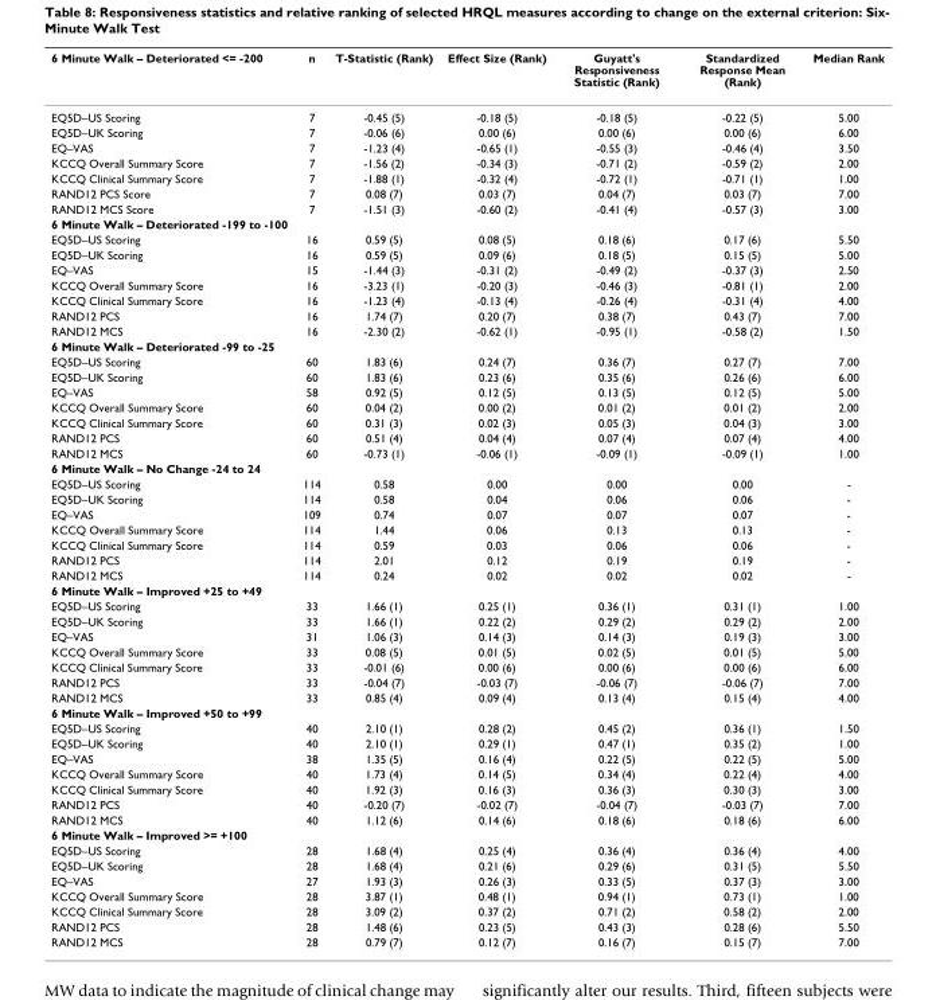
<table><thead><tr><td>6 Minute Walk – Deteriorated &lt;= -200</td><td>n</td><td>T-Statistic (Rank)</td><td>Effect Size (Rank)</td><td>Guyatt&#x27;s Responsiveness Statistic (Rank)</td><td>Standardized Response Mean (Rank)</td><td>Median Rank</td></tr></thead><tbody><tr><td>EQ5D–US Scoring</td><td>7</td><td>-0.45 (5)</td><td>-0.18 (5)</td><td>-0.18 (5)</td><td>-0.22 (5)</td><td>5.00</td></tr><tr><td>EQ5D–UK Scoring</td><td>7</td><td>-0.06 (6)</td><td>0.00 (6)</td><td>0.00 (6)</td><td>0.00 (6)</td><td>6.00</td></tr><tr><td>EQ–VAS</td><td>7</td><td>-1.23 (4)</td><td>-0.65 (1)</td><td>-0.55 (3)</td><td>-0.46 (4)</td><td>3.50</td></tr><tr><td>KCCQ Overall Summary Score</td><td>7</td><td>-1.56 (2)</td><td>-0.34 (3)</td><td>-0.71 (2)</td><td>-0.59 (2)</td><td>2.00</td></tr><tr><td>KCCQ Clinical Summary Score</td><td>7</td><td>-1.88 (1)</td><td>-0.32 (4)</td><td>-0.72 (1)</td><td>-0.71 (1)</td><td>1.00</td></tr><tr><td>RAND12 PCS Score</td><td>7</td><td>0.08 (7)</td><td>0.03 (7)</td><td>0.04 (7)</td><td>0.03 (7)</td><td>7.00</td></tr><tr><td>RAND12 MCS Score</td><td>7</td><td>-1.51 (3)</td><td>-0.60 (2)</td><td>-0.41 (4)</td><td>-0.57 (3)</td><td>3.00</td></tr><tr><td colspan="7">6 Minute Walk – Deteriorated -199 to -100</td></tr><tr><td>EQ5D–US Scoring</td><td>16</td><td>0.59 (5)</td><td>0.08 (5)</td><td>0.18 (6)</td><td>0.17 (6)</td><td>5.50</td></tr><tr><td>EQ5D–UK Scoring</td><td>16</td><td>0.59 (5)</td><td>0.09 (6)</td><td>0.18 (5)</td><td>0.15 (5)</td><td>5.00</td></tr><tr><td>EQ–VAS</td><td>15</td><td>-1.44 (3)</td><td>-0.31 (2)</td><td>-0.49 (2)</td><td>-0.37 (3)</td><td>2.50</td></tr><tr><td>KCCQ Overall Summary Score</td><td>16</td><td>-3.23 (1)</td><td>-0.20 (3)</td><td>-0.46 (3)</td><td>-0.81 (1)</td><td>2.00</td></tr><tr><td>KCCQ Clinical Summary Score</td><td>16</td><td>-1.23 (4)</td><td>-0.13 (4)</td><td>-0.26 (4)</td><td>-0.31 (4)</td><td>4.00</td></tr><tr><td>RAND12 PCS</td><td>16</td><td>1.74 (7)</td><td>0.20 (7)</td><td>0.38 (7)</td><td>0.43 (7)</td><td>7.00</td></tr><tr><td>RAND12 MCS</td><td>16</td><td>-2.30 (2)</td><td>-0.62 (1)</td><td>-0.95 (1)</td><td>-0.58 (2)</td><td>1.50</td></tr><tr><td colspan="7">6 Minute Walk – Deteriorated -99 to -25</td></tr><tr><td>EQ5D–US Scoring</td><td>60</td><td>1.83 (6)</td><td>0.24 (7)</td><td>0.36 (7)</td><td>0.27 (7)</td><td>7.00</td></tr><tr><td>EQ5D–UK Scoring</td><td>60</td><td>1.83 (6)</td><td>0.23 (6)</td><td>0.35 (6)</td><td>0.26 (6)</td><td>6.00</td></tr><tr><td>EQ–VAS</td><td>58</td><td>0.92 (5)</td><td>0.12 (5)</td><td>0.13 (5)</td><td>0.12 (5)</td><td>5.00</td></tr><tr><td>KCCQ Overall Summary Score</td><td>60</td><td>0.04 (2)</td><td>0.00 (2)</td><td>0.01 (2)</td><td>0.01 (2)</td><td>2.00</td></tr><tr><td>KCCQ Clinical Summary Score</td><td>60</td><td>0.31 (3)</td><td>0.02 (3)</td><td>0.05 (3)</td><td>0.04 (3)</td><td>3.00</td></tr><tr><td>RAND12 PCS</td><td>60</td><td>0.51 (4)</td><td>0.04 (4)</td><td>0.07 (4)</td><td>0.07 (4)</td><td>4.00</td></tr><tr><td>RAND12 MCS</td><td>60</td><td>-0.73 (1)</td><td>-0.06 (1)</td><td>-0.09 (1)</td><td>-0.09 (1)</td><td>1.00</td></tr><tr><td colspan="7">6 Minute Walk – No Change -24 to 24</td></tr><tr><td>EQ5D–US Scoring</td><td>114</td><td>0.58</td><td>0.00</td><td>0.00</td><td>0.00</td><td>-</td></tr><tr><td>EQ5D–UK Scoring</td><td>114</td><td>0.58</td><td>0.04</td><td>0.06</td><td>0.06</td><td>-</td></tr><tr><td>EQ–VAS</td><td>109</td><td>0.74</td><td>0.07</td><td>0.07</td><td>0.07</td><td>-</td></tr><tr><td>KCCQ Overall Summary Score</td><td>114</td><td>1.44</td><td>0.06</td><td>0.13</td><td>0.13</td><td>-</td></tr><tr><td>KCCQ Clinical Summary Score</td><td>114</td><td>0.59</td><td>0.03</td><td>0.06</td><td>0.06</td><td>-</td></tr><tr><td>RAND12 PCS</td><td>114</td><td>2.01</td><td>0.12</td><td>0.19</td><td>0.19</td><td>-</td></tr><tr><td>RAND12 MCS</td><td>114</td><td>0.24</td><td>0.02</td><td>0.02</td><td>0.02</td><td>-</td></tr><tr><td colspan="7">6 Minute Walk – Improved +25 to +49</td></tr><tr><td>EQ5D–US Scoring</td><td>33</td><td>1.66 (1)</td><td>0.25 (1)</td><td>0.36 (1)</td><td>0.31 (1)</td><td>1.00</td></tr><tr><td>EQ5D–UK Scoring</td><td>33</td><td>1.66 (1)</td><td>0.22 (2)</td><td>0.29 (2)</td><td>0.29 (2)</td><td>2.00</td></tr><tr><td>EQ–VAS</td><td>31</td><td>1.06 (3)</td><td>0.14 (3)</td><td>0.14 (3)</td><td>0.19 (3)</td><td>3.00</td></tr><tr><td>KCCQ Overall Summary Score</td><td>33</td><td>0.08 (5)</td><td>0.01 (5)</td><td>0.02 (5)</td><td>0.01 (5)</td><td>5.00</td></tr><tr><td>KCCQ Clinical Summary Score</td><td>33</td><td>-0.01 (6)</td><td>0.00 (6)</td><td>0.00 (6)</td><td>0.00 (6)</td><td>6.00</td></tr><tr><td>RAND12 PCS</td><td>33</td><td>-0.04 (7)</td><td>-0.03 (7)</td><td>-0.06 (7)</td><td>-0.06 (7)</td><td>7.00</td></tr><tr><td>RAND12 MCS</td><td>33</td><td>0.85 (4)</td><td>0.09 (4)</td><td>0.13 (4)</td><td>0.15 (4)</td><td>4.00</td></tr><tr><td colspan="7">6 Minute Walk – Improved +50 to +99</td></tr><tr><td>EQ5D–US Scoring</td><td>40</td><td>2.10 (1)</td><td>0.28 (2)</td><td>0.45 (2)</td><td>0.36 (1)</td><td>1.50</td></tr><tr><td>EQ5D–UK Scoring</td><td>40</td><td>2.10 (1)</td><td>0.29 (1)</td><td>0.47 (1)</td><td>0.35 (2)</td><td>1.00</td></tr><tr><td>EQ–VAS</td><td>38</td><td>1.35 (5)</td><td>0.16 (4)</td><td>0.22 (5)</td><td>0.22 (5)</td><td>5.00</td></tr><tr><td>KCCQ Overall Summary Score</td><td>40</td><td>1.73 (4)</td><td>0.14 (5)</td><td>0.34 (4)</td><td>0.22 (4)</td><td>4.00</td></tr><tr><td>KCCQ Clinical Summary Score</td><td>40</td><td>1.92 (3)</td><td>0.16 (3)</td><td>0.36 (3)</td><td>0.30 (3)</td><td>3.00</td></tr><tr><td>RAND12 PCS</td><td>40</td><td>-0.20 (7)</td><td>-0.02 (7)</td><td>-0.04 (7)</td><td>-0.03 (7)</td><td>7.00</td></tr><tr><td>RAND12 MCS</td><td>40</td><td>1.12 (6)</td><td>0.14 (6)</td><td>0.18 (6)</td><td>0.18 (6)</td><td>6.00</td></tr><tr><td colspan="7">6 Minute Walk – Improved &gt;= +100</td></tr><tr><td>EQ5D–US Scoring</td><td>28</td><td>1.68 (4)</td><td>0.25 (4)</td><td>0.36 (4)</td><td>0.36 (4)</td><td>4.00</td></tr><tr><td>EQ5D–UK Scoring</td><td>28</td><td>1.68 (4)</td><td>0.21 (6)</td><td>0.29 (6)</td><td>0.31 (5)</td><td>5.50</td></tr><tr><td>EQ–VAS</td><td>27</td><td>1.93 (3)</td><td>0.26 (3)</td><td>0.33 (5)</td><td>0.37 (3)</td><td>3.00</td></tr><tr><td>KCCQ Overall Summary Score</td><td>28</td><td>3.87 (1)</td><td>0.48 (1)</td><td>0.94 (1)</td><td>0.73 (1)</td><td>1.00</td></tr><tr><td>KCCQ Clinical Summary Score</td><td>28</td><td>3.09 (2)</td><td>0.37 (2)</td><td>0.71 (2)</td><td>0.58 (2)</td><td>2.00</td></tr><tr><td>RAND12 PCS</td><td>28</td><td>1.48 (6)</td><td>0.23 (5)</td><td>0.43 (3)</td><td>0.28 (6)</td><td>5.50</td></tr><tr><td>RAND12 MCS</td><td>28</td><td>0.79 (7)</td><td>0.12 (7)</td><td>0.16 (7)</td><td>0.15 (7)</td><td>7.00</td></tr></tbody></table>